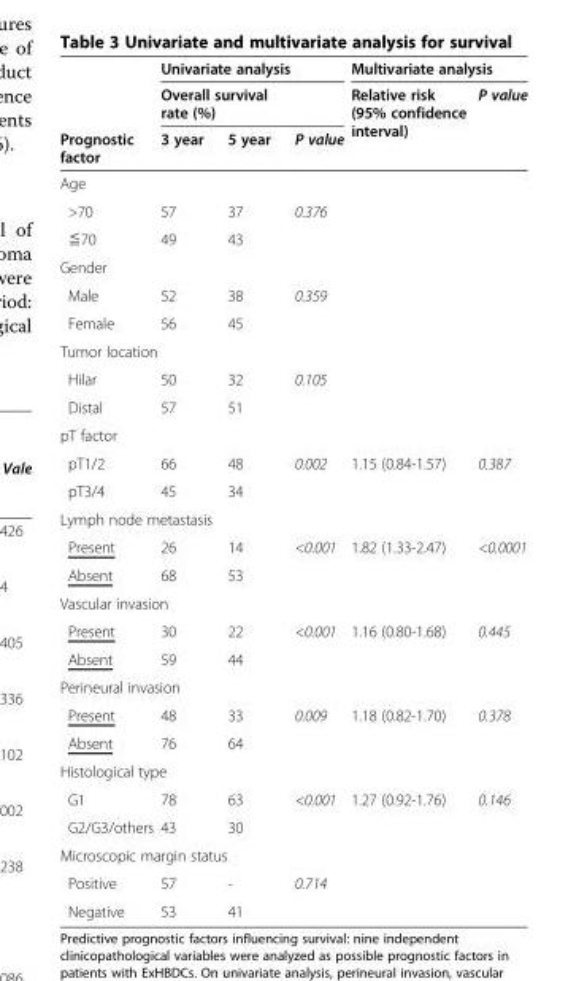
<table><thead><tr><td rowspan="3">Prognostic factor</td><td colspan="3">Univariate analysis</td><td colspan="2">Multivariate analysis</td></tr><tr><td colspan="2">Overall survival rate (%)</td><td rowspan="2">P value</td><td rowspan="2">Relative risk (95% confidence interval)</td><td rowspan="2">P value</td></tr><tr><td>3 year</td><td>5 year</td></tr></thead><tbody><tr><td colspan="6">Age</td></tr><tr><td>&gt;70</td><td>57</td><td>37</td><td>0.376</td><td></td><td></td></tr><tr><td>≦70</td><td>49</td><td>43</td><td></td><td></td><td></td></tr><tr><td colspan="6">Gender</td></tr><tr><td>Male</td><td>52</td><td>38</td><td>0.359</td><td></td><td></td></tr><tr><td>Female</td><td>56</td><td>45</td><td></td><td></td><td></td></tr><tr><td colspan="6">Tumor location</td></tr><tr><td>Hilar</td><td>50</td><td>32</td><td>0.105</td><td></td><td></td></tr><tr><td>Distal</td><td>57</td><td>51</td><td></td><td></td><td></td></tr><tr><td colspan="6">pT factor</td></tr><tr><td>pT1/2</td><td>66</td><td>48</td><td>0.002</td><td>1.15 (0.84-1.57)</td><td>0.387</td></tr><tr><td>pT3/4</td><td>45</td><td>34</td><td></td><td></td><td></td></tr><tr><td colspan="6">Lymph node metastasis</td></tr><tr><td>Present</td><td>26</td><td>14</td><td>&lt;0.001</td><td>1.82 (1.33-2.47)</td><td>&lt;0.0001</td></tr><tr><td>Absent</td><td>68</td><td>53</td><td></td><td></td><td></td></tr><tr><td colspan="6">Vascular invasion</td></tr><tr><td>Present</td><td>30</td><td>22</td><td>&lt;0.001</td><td>1.16 (0.80-1.68)</td><td>0.445</td></tr><tr><td>Absent</td><td>59</td><td>44</td><td></td><td></td><td></td></tr><tr><td colspan="6">Perineural invasion</td></tr><tr><td>Present</td><td>48</td><td>33</td><td>0.009</td><td>1.18 (0.82-1.70)</td><td>0.378</td></tr><tr><td>Absent</td><td>76</td><td>64</td><td></td><td></td><td></td></tr><tr><td colspan="6">Histological type</td></tr><tr><td>G1</td><td>78</td><td>63</td><td>&lt;0.001</td><td>1.27 (0.92-1.76)</td><td>0.146</td></tr><tr><td>G2/G3/others</td><td>43</td><td>30</td><td></td><td></td><td></td></tr><tr><td colspan="6">Microscopic margin status</td></tr><tr><td>Positive</td><td>57</td><td>-</td><td>0.714</td><td></td><td></td></tr><tr><td>Negative</td><td>53</td><td>41</td><td></td><td></td><td></td></tr></tbody></table>